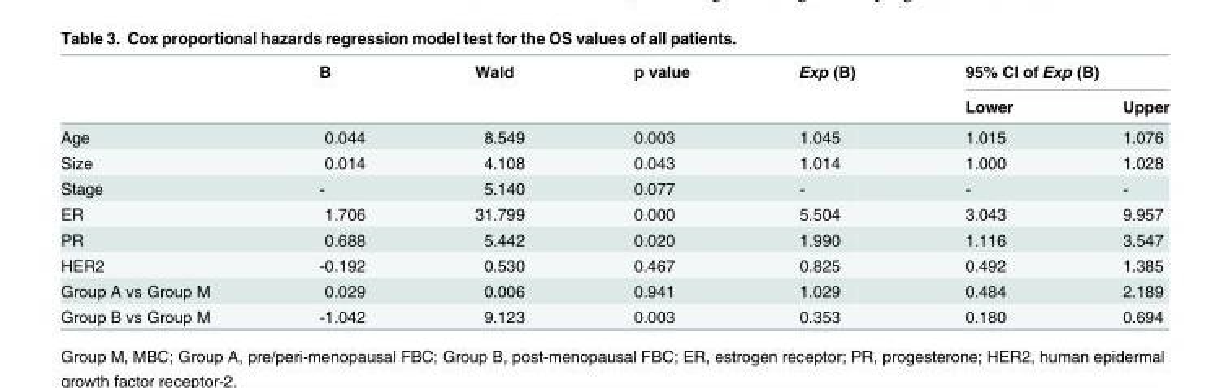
<table><thead><tr><td rowspan="2"></td><td rowspan="2">B</td><td rowspan="2">Wald</td><td rowspan="2">p value</td><td rowspan="2">Exp (B)</td><td colspan="2">95% CI of Exp (B)</td></tr><tr><td>Lower</td><td>Upper</td></tr></thead><tbody><tr><td>Age</td><td>0.044</td><td>8.549</td><td>0.003</td><td>1.045</td><td>1.015</td><td>1.076</td></tr><tr><td>Size</td><td>0.014</td><td>4.108</td><td>0.043</td><td>1.014</td><td>1.000</td><td>1.028</td></tr><tr><td>Stage</td><td>-</td><td>5.140</td><td>0.077</td><td>-</td><td>-</td><td>-</td></tr><tr><td>ER</td><td>1.706</td><td>31.799</td><td>0.000</td><td>5.504</td><td>3.043</td><td>9.957</td></tr><tr><td>PR</td><td>0.688</td><td>5.442</td><td>0.020</td><td>1.990</td><td>1.116</td><td>3.547</td></tr><tr><td>HER2</td><td>-0.192</td><td>0.530</td><td>0.467</td><td>0.825</td><td>0.492</td><td>1.385</td></tr><tr><td>Group A vs Group M</td><td>0.029</td><td>0.006</td><td>0.941</td><td>1.029</td><td>0.484</td><td>2.189</td></tr><tr><td>Group B vs Group M</td><td>-1.042</td><td>9.123</td><td>0.003</td><td>0.353</td><td>0.180</td><td>0.694</td></tr></tbody></table>